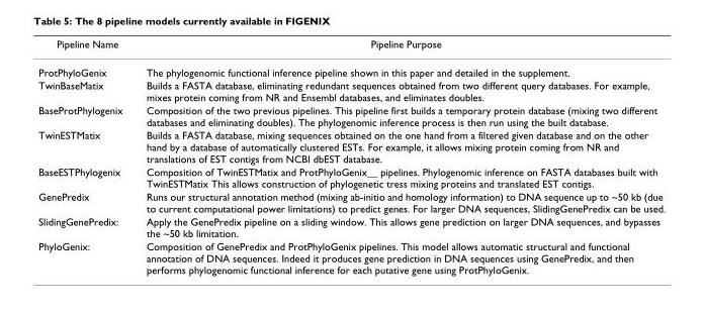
<table><thead><tr><td>Pipeline Name</td><td>Pipeline Purpose</td></tr></thead><tbody><tr><td>ProtPhyloGenix</td><td>The phylogenomic functional inference pipeline shown in this paper and detailed in the supplement.</td></tr><tr><td>TwinBaseMatix</td><td>Builds a FASTA database, eliminating redundant sequences obtained from two different query databases. For example, mixes protein coming from NR and Ensembl databases, and eliminates doubles.</td></tr><tr><td>BaseProtPhylogenix</td><td>Composition of the two previous pipelines. This pipeline first builds a temporary protein database (mixing two different databases and eliminating doubles). The phylogenomic inference process is then run using the built database.</td></tr><tr><td>TwinESTMatix</td><td>Builds a FASTA database, mixing sequences obtained on the one hand from a filtered given database and on the other hand by a database of automatically clustered ESTs. For example, it allows mixing protein coming from NR and translations of EST contigs from NCBI dbEST database.</td></tr><tr><td>BaseESTPhylogenix</td><td>Composition of TwinESTMatix and ProtPhyloGenix__ pipelines. Phylogenomic inference on FASTA databases built with TwinESTMatix This allows construction of phylogenetic tress mixing proteins and translated EST contigs.</td></tr><tr><td>GenePredix</td><td>Runs our structural annotation method (mixing ab-initio and homology information) to DNA sequence up to ~50 kb (due to current computational power limitations) to predict genes. For larger DNA sequences, SlidingGenePredix can be used.</td></tr><tr><td>SlidingGenePredix:</td><td>Apply the GenePredix pipeline on a sliding window. This allows gene prediction on larger DNA sequences, and bypasses the ~50 kb limitation.</td></tr><tr><td>PhyloGenix:</td><td>Composition of GenePredix and ProtPhyloGenix pipelines. This model allows automatic structural and functional annotation of DNA sequences. Indeed it produces gene prediction in DNA sequences using GenePredix, and then performs phylogenomic functional inference for each putative gene using ProtPhyloGenix.</td></tr></tbody></table>